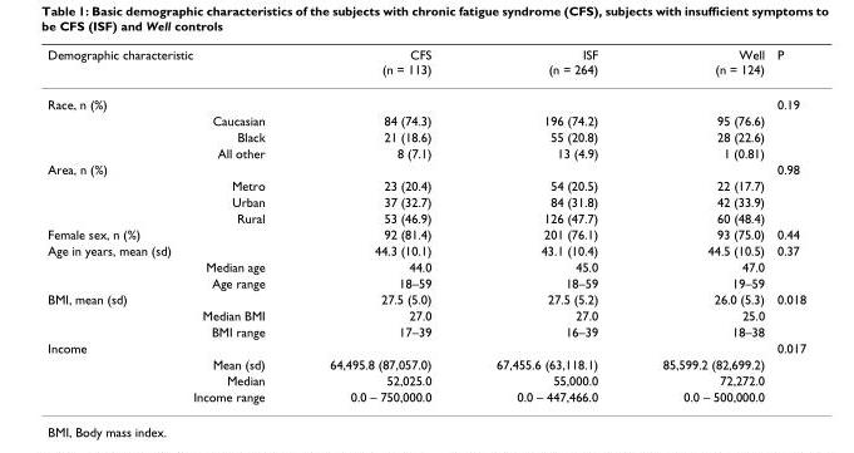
<table><thead><tr><td>Demographic characteristic</td><td>CFS (n = 113)</td><td>ISF (n = 264)</td><td>Well (n = 124)</td><td>P</td></tr></thead><tbody><tr><td>Race, n (%)</td><td></td><td></td><td></td><td>0.19</td></tr><tr><td>Caucasian</td><td>84 (74.3)</td><td>196 (74.2)</td><td>95 (76.6)</td><td></td></tr><tr><td>Black</td><td>21 (18.6)</td><td>55 (20.8)</td><td>28 (22.6)</td><td></td></tr><tr><td>All other</td><td>8 (7.1)</td><td>13 (4.9)</td><td>1 (0.81)</td><td></td></tr><tr><td>Area, n (%)</td><td></td><td></td><td></td><td>0.98</td></tr><tr><td>Metro</td><td>23 (20.4)</td><td>54 (20.5)</td><td>22 (17.7)</td><td></td></tr><tr><td>Urban</td><td>37 (32.7)</td><td>84 (31.8)</td><td>42 (33.9)</td><td></td></tr><tr><td>Rural</td><td>53 (46.9)</td><td>126 (47.7)</td><td>60 (48.4)</td><td></td></tr><tr><td>Female sex, n (%)</td><td>92 (81.4)</td><td>201 (76.1)</td><td>93 (75.0)</td><td>0.44</td></tr><tr><td>Age in years, mean (sd)</td><td>44.3 (10.1)</td><td>43.1 (10.4)</td><td>44.5 (10.5)</td><td>0.37</td></tr><tr><td>Median age</td><td>44.0</td><td>45.0</td><td>47.0</td><td></td></tr><tr><td>Age range</td><td>18–59</td><td>18–59</td><td>19–59</td><td></td></tr><tr><td>BMI, mean (sd)</td><td>27.5 (5.0)</td><td>27.5 (5.2)</td><td>26.0 (5.3)</td><td>0.018</td></tr><tr><td>Median BMI</td><td>27.0</td><td>27.0</td><td>25.0</td><td></td></tr><tr><td>BMI range</td><td>17–39</td><td>16–39</td><td>18–38</td><td></td></tr><tr><td>Income</td><td></td><td></td><td></td><td>0.017</td></tr><tr><td>Mean (sd)</td><td>64,495.8 (87,057.0)</td><td>67,455.6 (63,118.1)</td><td>85,599.2 (82,699.2)</td><td></td></tr><tr><td>Median</td><td>52,025.0</td><td>55,000.0</td><td>72,272.0</td><td></td></tr><tr><td>Income range</td><td>0.0 – 750,000.0</td><td>0.0 – 447,466.0</td><td>0.0 – 500,000.0</td><td></td></tr></tbody></table>